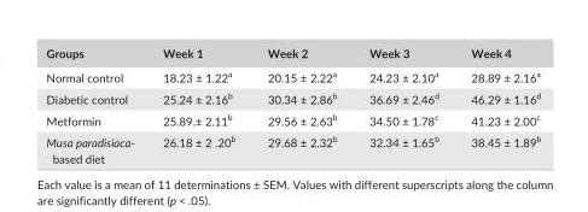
<table><thead><tr><td>Groups</td><td>Week 1</td><td>Week 2</td><td>Week 3</td><td>Week 4</td></tr></thead><tbody><tr><td>Normal control</td><td>18.23 ± 1.22<sup>a</sup></td><td>20.15 ± 2.22<sup>a</sup></td><td>24.23 ± 2.10<sup>a</sup></td><td>28.89 ± 2.16<sup>a</sup></td></tr><tr><td>Diabetic control</td><td>25.24 ± 2.16<sup>b</sup></td><td>30.34 ± 2.86<sup>b</sup></td><td>36.69 ± 2.46<sup>d</sup></td><td>46.29 ± 1.16<sup>d</sup></td></tr><tr><td>Metformin</td><td>25.89.± 2.11<sup>b</sup></td><td>29.56 ± 2.63<sup>b</sup></td><td>34.50 ± 1.78<sup>c</sup></td><td>41.23 ± 2.00<sup>c</sup></td></tr><tr><td>Musa paradisiaca- based diet</td><td>26.18 ± 2 .20<sup>b</sup></td><td>29.68 ± 2.32<sup>b</sup></td><td>32.34 ± 1.65<sup>b</sup></td><td>38.45 ± 1.89<sup>b</sup></td></tr></tbody></table>